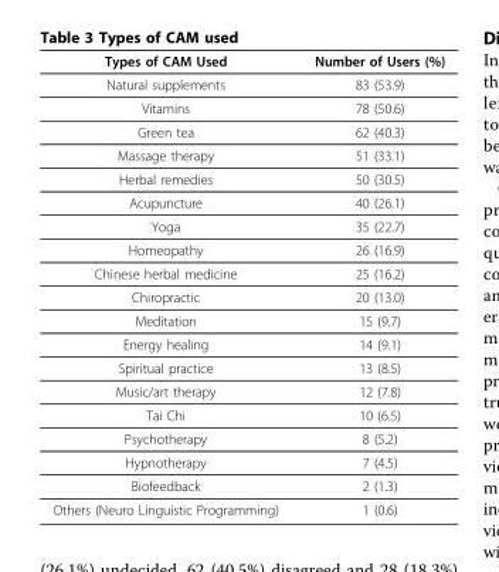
<table><thead><tr><td>Types of CAM Used</td><td>Number of Users (%)</td></tr></thead><tbody><tr><td>Natural supplements</td><td>83 (53.9)</td></tr><tr><td>Vitamins</td><td>78 (50.6)</td></tr><tr><td>Green tea</td><td>62 (40.3)</td></tr><tr><td>Massage therapy</td><td>51 (33.1)</td></tr><tr><td>Herbal remedies</td><td>50 (30.5)</td></tr><tr><td>Acupuncture</td><td>40 (26.1)</td></tr><tr><td>Yoga</td><td>35 (22.7)</td></tr><tr><td>Homeopathy</td><td>26 (16.9)</td></tr><tr><td>Chinese herbal medicine</td><td>25 (16.2)</td></tr><tr><td>Chiropractic</td><td>20 (13.0)</td></tr><tr><td>Meditation</td><td>15 (9.7)</td></tr><tr><td>Energy healing</td><td>14 (9.1)</td></tr><tr><td>Spiritual practice</td><td>13 (8.5)</td></tr><tr><td>Music/art therapy</td><td>12 (7.8)</td></tr><tr><td>Tai Chi</td><td>10 (6.5)</td></tr><tr><td>Psychotherapy</td><td>8 (5.2)</td></tr><tr><td>Hypnotherapy</td><td>7 (4.5)</td></tr><tr><td>Biofeedback</td><td>2 (1.3)</td></tr><tr><td>Others (Neuro Linguistic Programming)</td><td>1 (0.6)</td></tr></tbody></table>